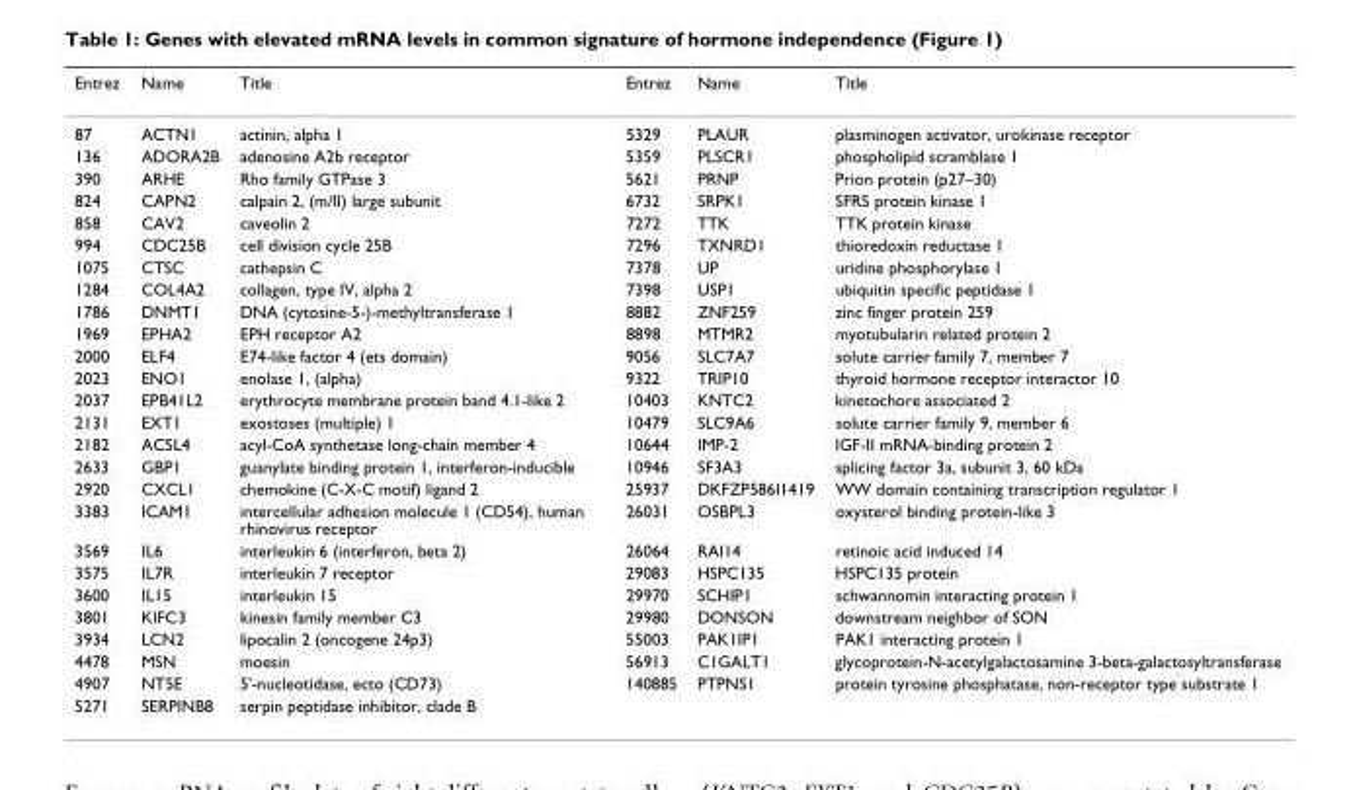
<table><thead><tr><td>Entrez</td><td>Name</td><td>Title</td><td>Entrez</td><td>Name</td><td>Title</td></tr></thead><tbody><tr><td>87</td><td>ACTN1</td><td>actinin, alpha 1</td><td>5329</td><td>PLAUR</td><td>plasminogen activator, urokinase receptor</td></tr><tr><td>136</td><td>ADORA2B</td><td>adenosine A2b receptor</td><td>5359</td><td>PLSCR1</td><td>phospholipid scramblase 1</td></tr><tr><td>390</td><td>ARHE</td><td>Rho family GTPase 3</td><td>5621</td><td>PRNP</td><td>Prion protein (p27–30)</td></tr><tr><td>824</td><td>CAPN2</td><td>calpain 2, (m/II) large subunit</td><td>6732</td><td>SRPK1</td><td>SFRS protein kinase 1</td></tr><tr><td>858</td><td>CAV2</td><td>caveolin 2</td><td>7272</td><td>TTK</td><td>TTK protein kinase</td></tr><tr><td>994</td><td>CDC25B</td><td>cell division cycle 25B</td><td>7296</td><td>TXNRD1</td><td>thioredoxin reductase 1</td></tr><tr><td>1075</td><td>CTSC</td><td>cathepsin C</td><td>7378</td><td>UP</td><td>uridine phosphorylase 1</td></tr><tr><td>1284</td><td>COL4A2</td><td>collagen, type IV, alpha 2</td><td>7398</td><td>USP1</td><td>ubiquitin specific peptidase 1</td></tr><tr><td>1786</td><td>DNMT1</td><td>DNA (cytosine-5-)-methyltransferase 1</td><td>8882</td><td>ZNF259</td><td>zinc finger protein 259</td></tr><tr><td>1969</td><td>EPHA2</td><td>EPH receptor A2</td><td>8898</td><td>MTMR2</td><td>myotubularin related protein 2</td></tr><tr><td>2000</td><td>ELF4</td><td>E74-like factor 4 (ets domain)</td><td>9056</td><td>SLC7A7</td><td>solute carrier family 7, member 7</td></tr><tr><td>2023</td><td>ENO1</td><td>enolase 1, (alpha)</td><td>9322</td><td>TRIP10</td><td>thyroid hormone receptor interactor 10</td></tr><tr><td>2037</td><td>EPB41L2</td><td>erythrocyte membrane protein band 4.1-like 2</td><td>10403</td><td>KNTC2</td><td>kinetochore associated 2</td></tr><tr><td>2131</td><td>EXT1</td><td>exostoses (multiple) 1</td><td>10479</td><td>SLC9A6</td><td>solute carrier family 9, member 6</td></tr><tr><td>2182</td><td>ACSL4</td><td>acyl-CoA synthetase long-chain member 4</td><td>10644</td><td>IMP-2</td><td>IGF-II mRNA-binding protein 2</td></tr><tr><td>2633</td><td>GBP1</td><td>guanylate binding protein 1, interferon-inducible</td><td>10946</td><td>SF3A3</td><td>splicing factor 3a, subunit 3, 60 kDa</td></tr><tr><td>2920</td><td>CXCL1</td><td>chemokine (C-X-C motif) ligand 2</td><td>25937</td><td>DKFZP586I1419</td><td>WW domain containing transcription regulator 1</td></tr><tr><td>3383</td><td>ICAM1</td><td>intercellular adhesion molecule 1 (CD54), human rhinovirus receptor</td><td>26031</td><td>OSBPL3</td><td>oxysterol binding protein-like 3</td></tr><tr><td>3569</td><td>IL6</td><td>interleukin 6 (interferon, beta 2)</td><td>26064</td><td>RAI14</td><td>retinoic acid induced 14</td></tr><tr><td>3575</td><td>IL7R</td><td>interleukin 7 receptor</td><td>29083</td><td>HSPC135</td><td>HSPC135 protein</td></tr><tr><td>3600</td><td>IL15</td><td>interleukin 15</td><td>29970</td><td>SCHIP1</td><td>schwannomin interacting protein 1</td></tr><tr><td>3801</td><td>KIFC3</td><td>kinesin family member C3</td><td>29980</td><td>DONSON</td><td>downstream neighbor of SON</td></tr><tr><td>3934</td><td>LCN2</td><td>lipocalin 2 (oncogene 24p3)</td><td>55003</td><td>PAK1IP1</td><td>PAK1 interacting protein 1</td></tr><tr><td>4478</td><td>MSN</td><td>moesin</td><td>56913</td><td>C1GALT1</td><td>glycoprotein-N-acetylgalactosamine 3-beta-galactosyltransferase</td></tr><tr><td>4907</td><td>NT5E</td><td>5&#x27;-nucleotidase, ecto (CD73)</td><td>140885</td><td>PTPNS1</td><td>protein tyrosine phosphatase, non-receptor type substrate 1</td></tr><tr><td>5271</td><td>SERPINB8</td><td>serpin peptidase inhibitor, clade B</td><td></td><td></td><td></td></tr></tbody></table>